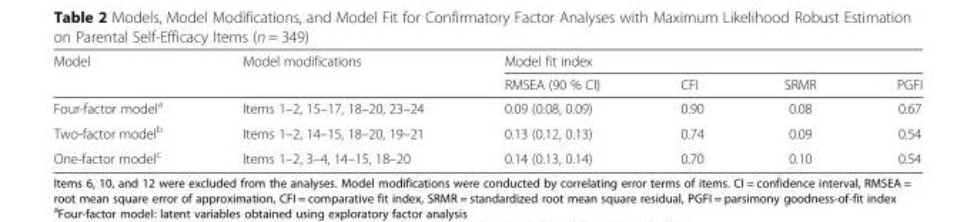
<table><thead><tr><td rowspan="2">Model</td><td rowspan="2">Model modifications</td><td colspan="4">Model fit index</td></tr><tr><td>RMSEA (90 % CI)</td><td>CFI</td><td>SRMR</td><td>PGFI</td></tr></thead><tbody><tr><td>Four-factor model<sup>a</sup></td><td>Items 1–2, 15–17, 18–20, 23–24</td><td>0.09 (0.08, 0.09)</td><td>0.90</td><td>0.08</td><td>0.67</td></tr><tr><td>Two-factor model<sup>b</sup></td><td>Items 1–2, 14–15, 18–20, 19–21</td><td>0.13 (0.12, 0.13)</td><td>0.74</td><td>0.09</td><td>0.54</td></tr><tr><td>One-factor model<sup>c</sup></td><td>Items 1–2, 3–4, 14–15, 18–20</td><td>0.14 (0.13, 0.14)</td><td>0.70</td><td>0.10</td><td>0.54</td></tr></tbody></table>